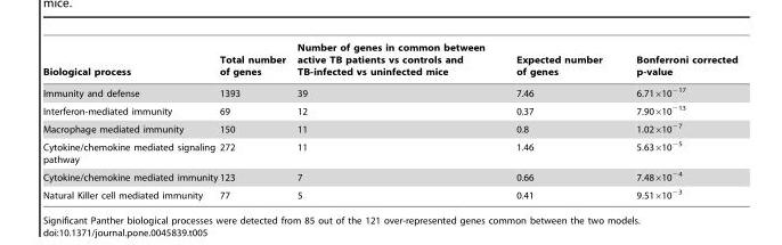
<table><thead><tr><td>Biological process</td><td>Total number of genes</td><td>Number of genes in common between active TB patients vs controls and TB-infected vs uninfected mice</td><td>Expected number of genes</td><td>Bonferroni corrected p-value</td></tr></thead><tbody><tr><td>Immunity and defense</td><td>1393</td><td>39</td><td>7.46</td><td>6.71×10<sup>−17</sup></td></tr><tr><td>Interferon-mediated immunity</td><td>69</td><td>12</td><td>0.37</td><td>7.90×10<sup>−13</sup></td></tr><tr><td>Macrophage mediated immunity</td><td>150</td><td>11</td><td>0.8</td><td>1.02×10<sup>−7</sup></td></tr><tr><td>Cytokine/chemokine mediated signaling pathway</td><td>272</td><td>11</td><td>1.46</td><td>5.63×10<sup>−5</sup></td></tr><tr><td>Cytokine/chemokine mediated immunity</td><td>123</td><td>7</td><td>0.66</td><td>7.48×10<sup>−4</sup></td></tr><tr><td>Natural Killer cell mediated immunity</td><td>77</td><td>5</td><td>0.41</td><td>9.51×10<sup>−3</sup></td></tr></tbody></table>